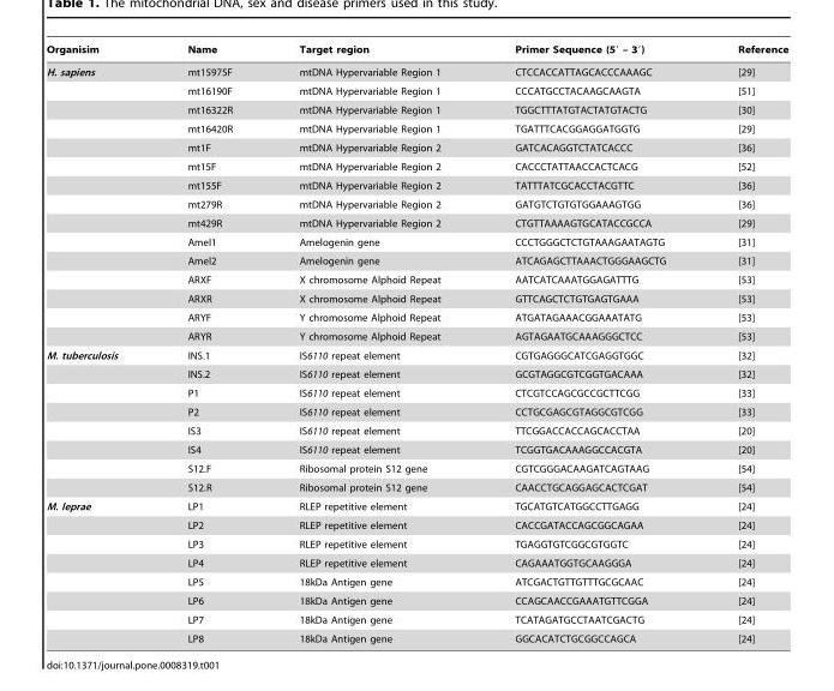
<table><thead><tr><td>Organisim</td><td>Name</td><td>Target region</td><td>Primer Sequence (5′ – 3′)</td><td>Reference</td></tr></thead><tbody><tr><td rowspan="15">H. sapiens</td><td>mt15975F</td><td>mtDNA Hypervariable Region 1</td><td>CTCCACCATTAGCACCCAAAGC</td><td>[29]</td></tr><tr><td>mt16190F</td><td>mtDNA Hypervariable Region 1</td><td>CCCATGCCTACAAGCAAGTA</td><td>[51]</td></tr><tr><td>mt16322R</td><td>mtDNA Hypervariable Region 1</td><td>TGGCTTTATGTACTATGTACTG</td><td>[30]</td></tr><tr><td>mt16420R</td><td>mtDNA Hypervariable Region 1</td><td>TGATTTCACGGAGGATGGTG</td><td>[29]</td></tr><tr><td>mt1F</td><td>mtDNA Hypervariable Region 2</td><td>GATCACAGGTCTATCACCC</td><td>[36]</td></tr><tr><td>mt15F</td><td>mtDNA Hypervariable Region 2</td><td>CACCCTATTAACCACTCACG</td><td>[52]</td></tr><tr><td>mt155F</td><td>mtDNA Hypervariable Region 2</td><td>TATTTATCGCACCTACGTTC</td><td>[36]</td></tr><tr><td>mt279R</td><td>mtDNA Hypervariable Region 2</td><td>GATGTCTGTGTGGAAAGTGG</td><td>[36]</td></tr><tr><td>mt429R</td><td>mtDNA Hypervariable Region 2</td><td>CTGTTAAAAGTGCATACCGCCA</td><td>[29]</td></tr><tr><td>Amel1</td><td>Amelogenin gene</td><td>CCCTGGGCTCTGTAAAGAATAGTG</td><td>[31]</td></tr><tr><td>Amel2</td><td>Amelogenin gene</td><td>ATCAGAGCTTAAACTGGGAAGCTG</td><td>[31]</td></tr><tr><td>ARXF</td><td>X chromosome Alphoid Repeat</td><td>AATCATCAAATGGAGATTTG</td><td>[53]</td></tr><tr><td>ARXR</td><td>X chromosome Alphoid Repeat</td><td>GTTCAGCTCTGTGAGTGAAA</td><td>[53]</td></tr><tr><td>ARYF</td><td>Y chromosome Alphoid Repeat</td><td>ATGATAGAAACGGAAATATG</td><td>[53]</td></tr><tr><td>ARYR</td><td>Y chromosome Alphoid Repeat</td><td>AGTAGAATGCAAAGGGCTCC</td><td>[53]</td></tr><tr><td rowspan="8">M. tuberculosis</td><td>INS.1</td><td>IS6110 repeat element</td><td>CGTGAGGGCATCGAGGTGGC</td><td>[32]</td></tr><tr><td>INS.2</td><td>IS6110 repeat element</td><td>GCGTAGGCGTCGGTGACAAA</td><td>[32]</td></tr><tr><td>P1</td><td>IS6110 repeat element</td><td>CTCGTCCAGCGCCGCTTCGG</td><td>[33]</td></tr><tr><td>P2</td><td>IS6110 repeat element</td><td>CCTGCGAGCGTAGGCGTCGG</td><td>[33]</td></tr><tr><td>IS3</td><td>IS6110 repeat element</td><td>TTCGGACCACCAGCACCTAA</td><td>[20]</td></tr><tr><td>IS4</td><td>IS6110 repeat element</td><td>TCGGTGACAAAGGCCACGTA</td><td>[20]</td></tr><tr><td>S12.F</td><td>Ribosomal protein S12 gene</td><td>CGTCGGGACAAGATCAGTAAG</td><td>[54]</td></tr><tr><td>S12.R</td><td>Ribosomal protein S12 gene</td><td>CAACCTGCAGGAGCACTCGAT</td><td>[54]</td></tr><tr><td rowspan="8">M. leprae</td><td>LP1</td><td>RLEP repetitive element</td><td>TGCATGTCATGGCCTTGAGG</td><td>[24]</td></tr><tr><td>LP2</td><td>RLEP repetitive element</td><td>CACCGATACCAGCGGCAGAA</td><td>[24]</td></tr><tr><td>LP3</td><td>RLEP repetitive element</td><td>TGAGGTGTCGGCGTGGTC</td><td>[24]</td></tr><tr><td>LP4</td><td>RLEP repetitive element</td><td>CAGAAATGGTGCAAGGGA</td><td>[24]</td></tr><tr><td>LP5</td><td>18kDa Antigen gene</td><td>ATCGACTGTTGTTTGCGCAAC</td><td>[24]</td></tr><tr><td>LP6</td><td>18kDa Antigen gene</td><td>CCAGCAACCGAAATGTTCGGA</td><td>[24]</td></tr><tr><td>LP7</td><td>18kDa Antigen gene</td><td>TCATAGATGCCTAATCGACTG</td><td>[24]</td></tr><tr><td>LP8</td><td>18kDa Antigen gene</td><td>GGCACATCTGCGGCCAGCA</td><td>[24]</td></tr></tbody></table>